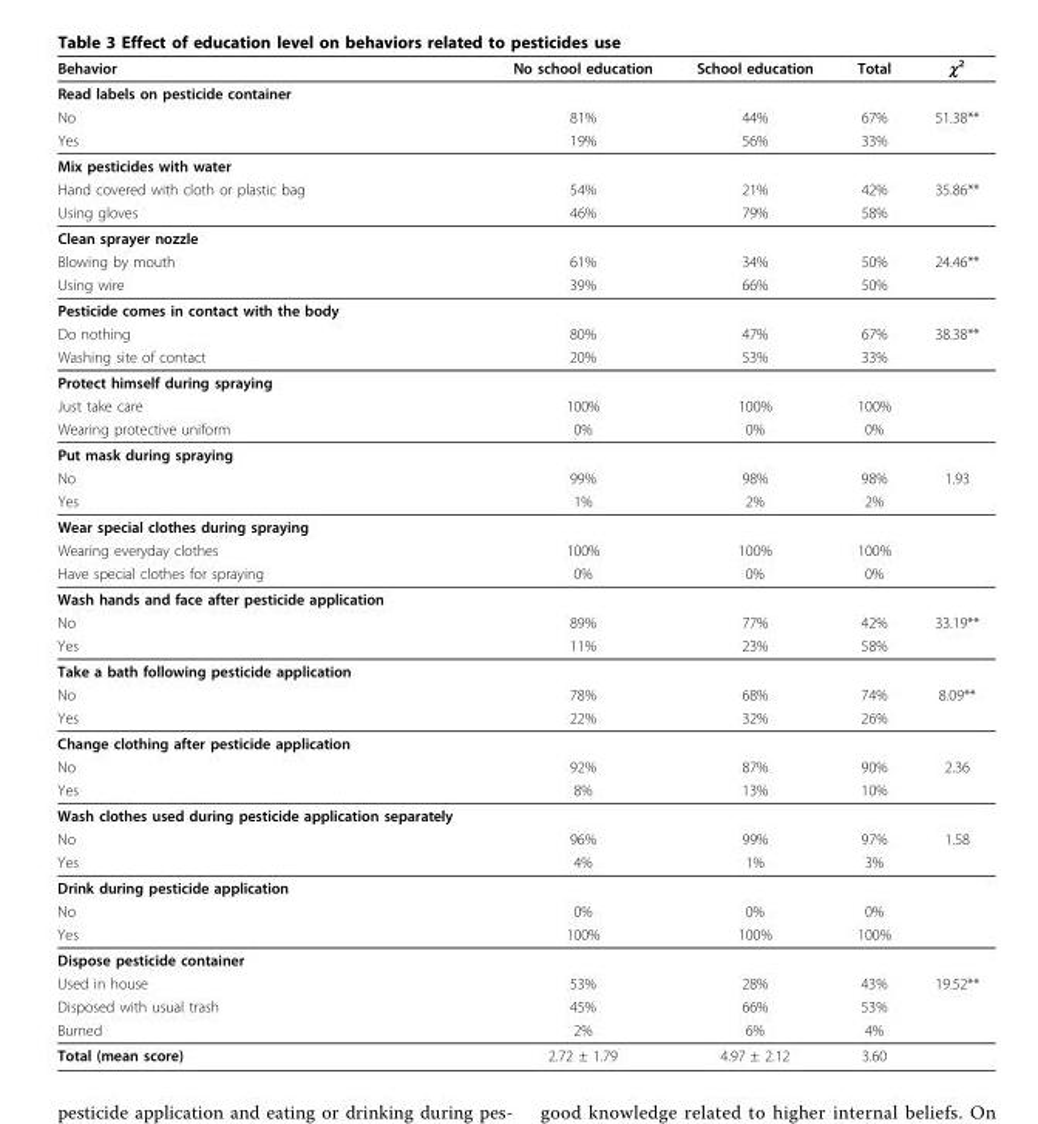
<table><thead><tr><td>Behavior</td><td>No school education</td><td>School education</td><td>Total</td><td>χ<sup>2</sup></td></tr></thead><tbody><tr><td colspan="5">Read labels on pesticide container</td></tr><tr><td>No</td><td>81%</td><td>44%</td><td>67%</td><td>51.38**</td></tr><tr><td>Yes</td><td>19%</td><td>56%</td><td>33%</td><td></td></tr><tr><td colspan="5">Mix pesticides with water</td></tr><tr><td>Hand covered with cloth or plastic bag</td><td>54%</td><td>21%</td><td>42%</td><td>35.86**</td></tr><tr><td>Using gloves</td><td>46%</td><td>79%</td><td>58%</td><td></td></tr><tr><td colspan="5">Clean sprayer nozzle</td></tr><tr><td>Blowing by mouth</td><td>61%</td><td>34%</td><td>50%</td><td>24.46**</td></tr><tr><td>Using wire</td><td>39%</td><td>66%</td><td>50%</td><td></td></tr><tr><td colspan="5">Pesticide comes in contact with the body</td></tr><tr><td>Do nothing</td><td>80%</td><td>47%</td><td>67%</td><td>38.38**</td></tr><tr><td>Washing site of contact</td><td>20%</td><td>53%</td><td>33%</td><td></td></tr><tr><td colspan="5">Protect himself during spraying</td></tr><tr><td>Just take care</td><td>100%</td><td>100%</td><td>100%</td><td></td></tr><tr><td>Wearing protective uniform</td><td>0%</td><td>0%</td><td>0%</td><td></td></tr><tr><td colspan="5">Put mask during spraying</td></tr><tr><td>No</td><td>99%</td><td>98%</td><td>98%</td><td>1.93</td></tr><tr><td>Yes</td><td>1%</td><td>2%</td><td>2%</td><td></td></tr><tr><td colspan="5">Wear special clothes during spraying</td></tr><tr><td>Wearing everyday clothes</td><td>100%</td><td>100%</td><td>100%</td><td></td></tr><tr><td>Have special clothes for spraying</td><td>0%</td><td>0%</td><td>0%</td><td></td></tr><tr><td colspan="5">Wash hands and face after pesticide application</td></tr><tr><td>No</td><td>89%</td><td>77%</td><td>42%</td><td>33.19**</td></tr><tr><td>Yes</td><td>11%</td><td>23%</td><td>58%</td><td></td></tr><tr><td colspan="5">Take a bath following pesticide application</td></tr><tr><td>No</td><td>78%</td><td>68%</td><td>74%</td><td>8.09**</td></tr><tr><td>Yes</td><td>22%</td><td>32%</td><td>26%</td><td></td></tr><tr><td colspan="5">Change clothing after pesticide application</td></tr><tr><td>No</td><td>92%</td><td>87%</td><td>90%</td><td>2.36</td></tr><tr><td>Yes</td><td>8%</td><td>13%</td><td>10%</td><td></td></tr><tr><td colspan="5">Wash clothes used during pesticide application separately</td></tr><tr><td>No</td><td>96%</td><td>99%</td><td>97%</td><td>1.58</td></tr><tr><td>Yes</td><td>4%</td><td>1%</td><td>3%</td><td></td></tr><tr><td colspan="5">Drink during pesticide application</td></tr><tr><td>No</td><td>0%</td><td>0%</td><td>0%</td><td></td></tr><tr><td>Yes</td><td>100%</td><td>100%</td><td>100%</td><td></td></tr><tr><td colspan="5">Dispose pesticide container</td></tr><tr><td>Used in house</td><td>53%</td><td>28%</td><td>43%</td><td>19.52**</td></tr><tr><td>Disposed with usual trash</td><td>45%</td><td>66%</td><td>53%</td><td></td></tr><tr><td>Burned</td><td>2%</td><td>6%</td><td>4%</td><td></td></tr><tr><td>Total (mean score)</td><td>2.72 ± 1.79</td><td>4.97 ± 2.12</td><td>3.60</td><td></td></tr></tbody></table>